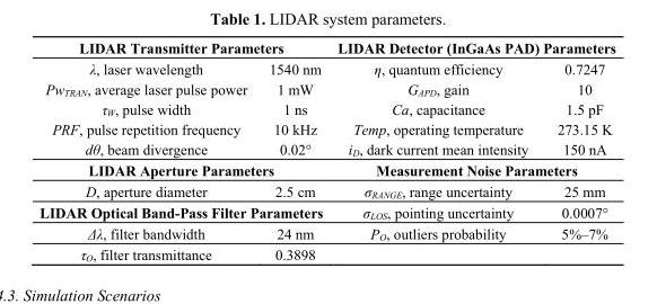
<table><thead><tr><td colspan="2">LIDAR Transmitter Parameters</td><td colspan="2">LIDAR Detector (InGaAs PAD) Parameters</td></tr><tr><td>λ, laser wavelength</td><td>1540 nm</td><td>η, quantum efficiency</td><td>0.7247</td></tr></thead><tbody><tr><td>Pw<sub>TRAN</sub>, average laser pulse power</td><td>1 mW</td><td>G<sub>APD</sub>, gain</td><td>10</td></tr><tr><td>τ<sub>W</sub>, pulse width</td><td>1 ns</td><td>Ca, capacitance</td><td>1.5 pF</td></tr><tr><td>PRF, pulse repetition frequency</td><td>10 kHz</td><td>Temp, operating temperature</td><td>273.15 K</td></tr><tr><td>dθ, beam divergence</td><td>0.02°</td><td>i<sub>D</sub>, dark current mean intensity</td><td>150 nA</td></tr><tr><td colspan="2">LIDAR Aperture Parameters</td><td colspan="2">Measurement Noise Parameters</td></tr><tr><td>D, aperture diameter</td><td>2.5 cm</td><td>σ<sub>RANGE</sub>, range uncertainty</td><td>25 mm</td></tr><tr><td colspan="2">LIDAR Optical Band-Pass Filter Parameters</td><td>σ<sub>LOS</sub>, pointing uncertainty</td><td>0.0007°</td></tr><tr><td>Δλ, filter bandwidth</td><td>24 nm</td><td>P<sub>O</sub>, outliers probability</td><td>5%–7%</td></tr><tr><td>τ<sub>O</sub>, filter transmittance</td><td>0.3898</td><td></td><td></td></tr></tbody></table>